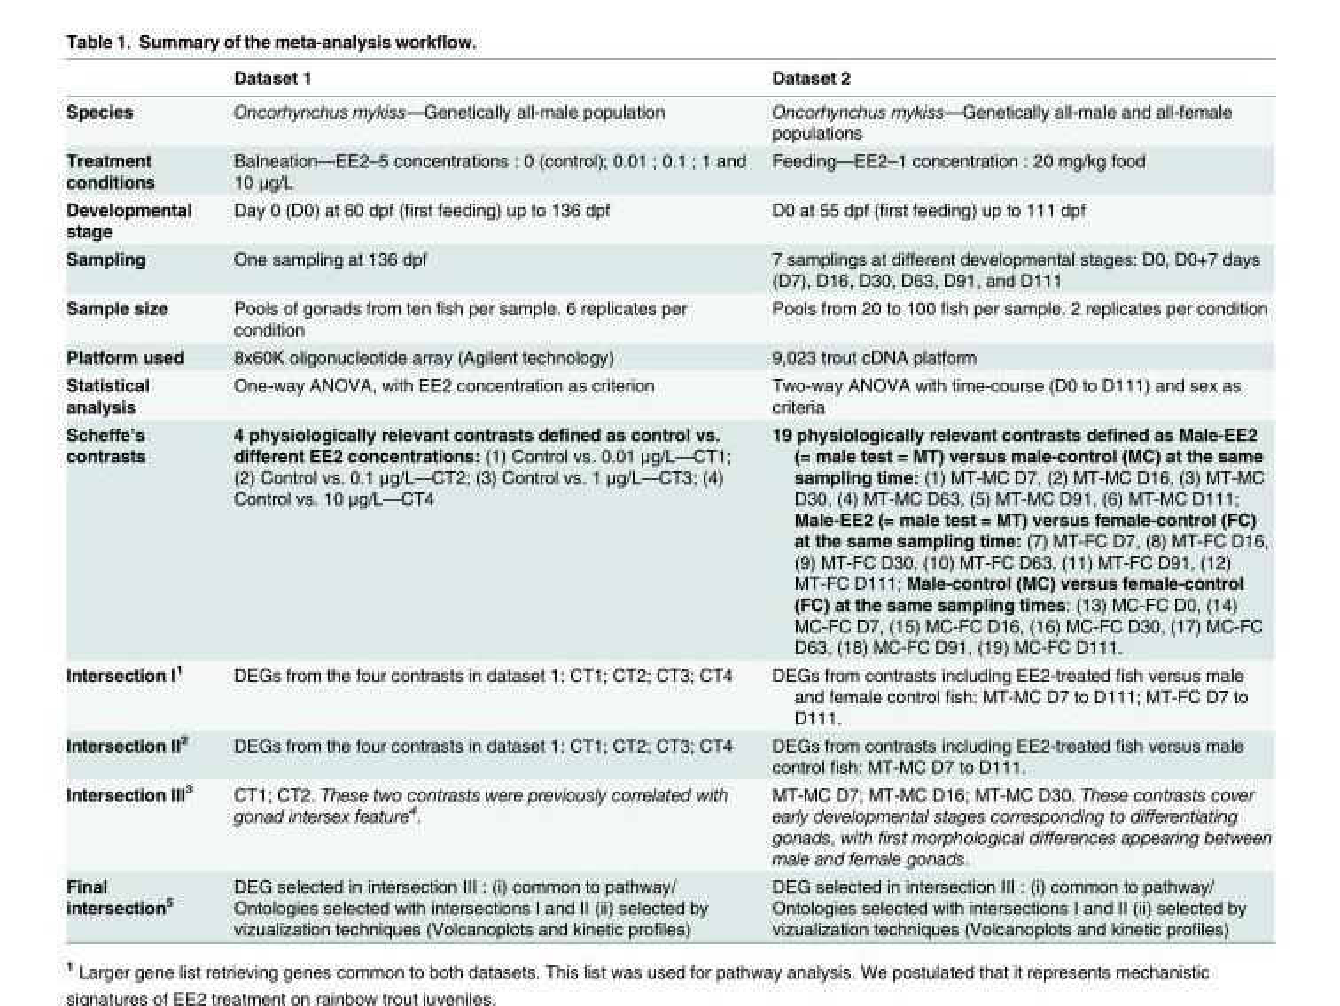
<table><thead><tr><td></td><td>Dataset 1</td><td>Dataset 2</td></tr></thead><tbody><tr><td>Species</td><td>Oncorhynchus mykiss—Genetically all-male population</td><td>Oncorhynchus mykiss—Genetically all-male and all-female populations</td></tr><tr><td>Treatment conditions</td><td>Balneation—EE2–5 concentrations : 0 (control); 0.01 ; 0.1 ; 1 and 10 μg/L</td><td>Feeding—EE2–1 concentration : 20 mg/kg food</td></tr><tr><td>Developmental stage</td><td>Day 0 (D0) at 60 dpf (first feeding) up to 136 dpf</td><td>D0 at 55 dpf (first feeding) up to 111 dpf</td></tr><tr><td>Sampling</td><td>One sampling at 136 dpf</td><td>7 samplings at different developmental stages: D0, D0+7 days (D7), D16, D30, D63, D91, and D111</td></tr><tr><td>Sample size</td><td>Pools of gonads from ten fish per sample. 6 replicates per condition</td><td>Pools from 20 to 100 fish per sample. 2 replicates per condition</td></tr><tr><td>Platform used</td><td>8x60K oligonucleotide array (Agilent technology)</td><td>9,023 trout cDNA platform</td></tr><tr><td>Statistical analysis</td><td>One-way ANOVA, with EE2 concentration as criterion</td><td>Two-way ANOVA with time-course (D0 to D111) and sex as criteria</td></tr><tr><td>Scheffe’s contrasts</td><td>4 physiologically relevant contrasts defined as control vs. different EE2 concentrations: (1) Control vs. 0.01 μg/L—CT1; (2) Control vs. 0.1 μg/L—CT2; (3) Control vs. 1 μg/L—CT3; (4) Control vs. 10 μg/L—CT4</td><td>19 physiologically relevant contrasts defined as Male-EE2 (= male test = MT) versus male-control (MC) at the same sampling time: (1) MT-MC D7, (2) MT-MC D16, (3) MT-MC D30, (4) MT-MC D63, (5) MT-MC D91, (6) MT-MC D111; Male-EE2 (= male test = MT) versus female-control (FC) at the same sampling time: (7) MT-FC D7, (8) MT-FC D16, (9) MT-FC D30, (10) MT-FC D63, (11) MT-FC D91, (12) MT-FC D111; Male-control (MC) versus female-control (FC) at the same sampling times: (13) MC-FC D0, (14) MC-FC D7, (15) MC-FC D16, (16) MC-FC D30, (17) MC-FC D63, (18) MC-FC D91, (19) MC-FC D111.</td></tr><tr><td>Intersection I<sup>1</sup></td><td>DEGs from the four contrasts in dataset 1: CT1; CT2; CT3; CT4</td><td>DEGs from contrasts including EE2-treated fish versus male and female control fish: MT-MC D7 to D111; MT-FC D7 to D111.</td></tr><tr><td>Intersection II<sup>2</sup></td><td>DEGs from the four contrasts in dataset 1: CT1; CT2; CT3; CT4</td><td>DEGs from contrasts including EE2-treated fish versus male control fish: MT-MC D7 to D111.</td></tr><tr><td>Intersection III<sup>3</sup></td><td>CT1; CT2. These two contrasts were previously correlated with gonad intersex feature<sup>4</sup>.</td><td>MT-MC D7; MT-MC D16; MT-MC D30. These contrasts cover early developmental stages corresponding to differentiating gonads, with first morphological differences appearing between male and female gonads.</td></tr><tr><td>Final intersection<sup>5</sup></td><td>DEG selected in intersection III : (i) common to pathway/ Ontologies selected with intersections I and II (ii) selected by vizualization techniques (Volcanoplots and kinetic profiles)</td><td>DEG selected in intersection III : (i) common to pathway/ Ontologies selected with intersections I and II (ii) selected by vizualization techniques (Volcanoplots and kinetic profiles)</td></tr></tbody></table>